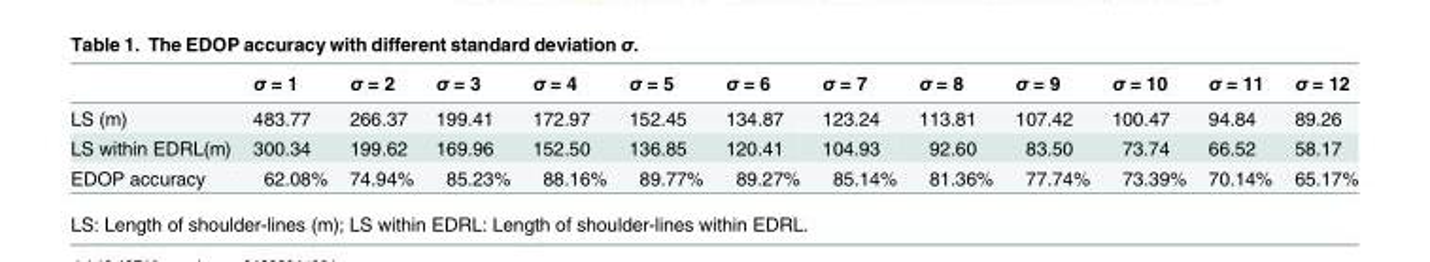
<table><thead><tr><td></td><td>σ = 1</td><td>σ = 2</td><td>σ = 3</td><td>σ = 4</td><td>σ = 5</td><td>σ = 6</td><td>σ = 7</td><td>σ = 8</td><td>σ = 9</td><td>σ = 10</td><td>σ = 11</td><td>σ = 12</td></tr></thead><tbody><tr><td>LS (m)</td><td>483.77</td><td>266.37</td><td>199.41</td><td>172.97</td><td>152.45</td><td>134.87</td><td>123.24</td><td>113.81</td><td>107.42</td><td>100.47</td><td>94.84</td><td>89.26</td></tr><tr><td>LS within EDRL(m)</td><td>300.34</td><td>199.62</td><td>169.96</td><td>152.50</td><td>136.85</td><td>120.41</td><td>104.93</td><td>92.60</td><td>83.50</td><td>73.74</td><td>66.52</td><td>58.17</td></tr><tr><td>EDOP accuracy</td><td>62.08%</td><td>74.94%</td><td>85.23%</td><td>88.16%</td><td>89.77%</td><td>89.27%</td><td>85.14%</td><td>81.36%</td><td>77.74%</td><td>73.39%</td><td>70.14%</td><td>65.17%</td></tr></tbody></table>